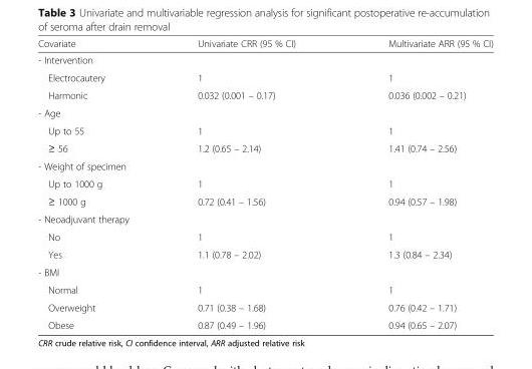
<table><thead><tr><td>Covariate</td><td>Univariate CRR (95 % CI)</td><td>Multivariate ARR (95 % CI)</td></tr></thead><tbody><tr><td colspan="3">- Intervention</td></tr><tr><td>Electrocautery</td><td>1</td><td>1</td></tr><tr><td>Harmonic</td><td>0.032 (0.001 – 0.17)</td><td>0.036 (0.002 – 0.21)</td></tr><tr><td colspan="3">- Age</td></tr><tr><td>Up to 55</td><td>1</td><td>1</td></tr><tr><td>≥ 56</td><td>1.2 (0.65 – 2.14)</td><td>1.41 (0.74 – 2.56)</td></tr><tr><td colspan="3">- Weight of specimen</td></tr><tr><td>Up to 1000 g</td><td>1</td><td>1</td></tr><tr><td>≥ 1000 g</td><td>0.72 (0.41 – 1.56)</td><td>0.94 (0.57 – 1.98)</td></tr><tr><td colspan="3">- Neoadjuvant therapy</td></tr><tr><td>No</td><td>1</td><td>1</td></tr><tr><td>Yes</td><td>1.1 (0.78 – 2.02)</td><td>1.3 (0.84 – 2.34)</td></tr><tr><td colspan="3">- BMI</td></tr><tr><td>Normal</td><td>1</td><td>1</td></tr><tr><td>Overweight</td><td>0.71 (0.38 – 1.68)</td><td>0.76 (0.42 – 1.71)</td></tr><tr><td>Obese</td><td>0.87 (0.49 – 1.96)</td><td>0.94 (0.65 – 2.07)</td></tr></tbody></table>